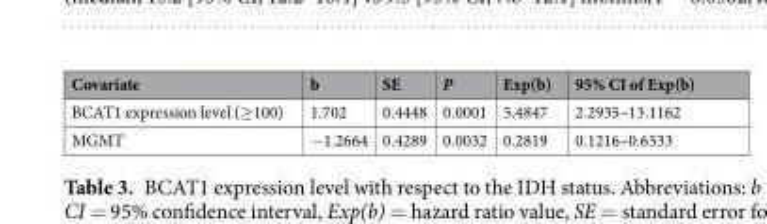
<table><thead><tr><td>Covariate</td><td>b</td><td>SE</td><td>P</td><td>Exp(b)</td><td>95% CI of Exp(b)</td></tr></thead><tbody><tr><td>BCAT1 expression level (≥100)</td><td>1.702</td><td>0.4448</td><td>0.0001</td><td>5.4847</td><td>2.2935–13.1162</td></tr><tr><td>MGMT</td><td>−1.2664</td><td>0.4289</td><td>0.0032</td><td>0.2819</td><td>0.1216–0.6533</td></tr></tbody></table>